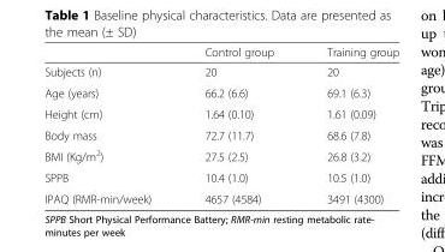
<table><thead><tr><td></td><td>Control group</td><td>Training group</td></tr></thead><tbody><tr><td>Subjects (n)</td><td>20</td><td>20</td></tr><tr><td>Age (years)</td><td>66.2 (6.6)</td><td>69.1 (6.3)</td></tr><tr><td>Height (cm)</td><td>1.64 (0.10)</td><td>1.61 (0.09)</td></tr><tr><td>Body mass</td><td>72.7 (11.7)</td><td>68.6 (7.8)</td></tr><tr><td>BMI (Kg/m<sup>2</sup>)</td><td>27.5 (2.5)</td><td>26.8 (3.2)</td></tr><tr><td>SPPB</td><td>10.4 (1.0)</td><td>10.5 (1.0)</td></tr><tr><td>IPAQ (RMR-min/week)</td><td>4657 (4584)</td><td>3491 (4300)</td></tr></tbody></table>